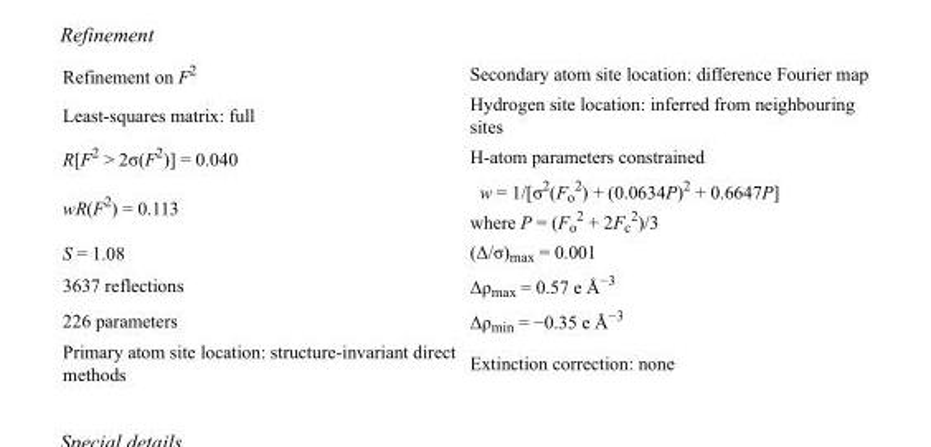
<table><tbody><tr><td>Refinement on F<sup>2</sup></td><td>Secondary atom site location: difference Fourier map</td></tr><tr><td>Least-squares matrix: full</td><td>Hydrogen site location: inferred from neighbouring sites</td></tr><tr><td>R[F<sup>2</sup> &gt; 2σ(F<sup>2</sup>)] = 0.040</td><td>H-atom parameters constrained</td></tr><tr><td>wR(F<sup>2</sup>) = 0.113</td><td>w = 1/[σ<sup>2</sup>(F<sub>o</sub> <sup>2</sup>) + (0.0634P)<sup>2</sup> + 0.6647P] where P = (F<sub>o</sub> <sup>2</sup> + 2F<sub>c</sub> <sup>2</sup>)/3</td></tr><tr><td>S = 1.08</td><td>(Δ/σ)<sub>max</sub> = 0.001</td></tr><tr><td>3637 reflections</td><td>Δρ<sub>max</sub> = 0.57 e Å<sup>−3</sup></td></tr><tr><td>226 parameters</td><td>Δρ<sub>min</sub> = −0.35 e Å<sup>−3</sup></td></tr><tr><td>Primary atom site location: structure-invariant direct methods</td><td>Extinction correction: none</td></tr></tbody></table>